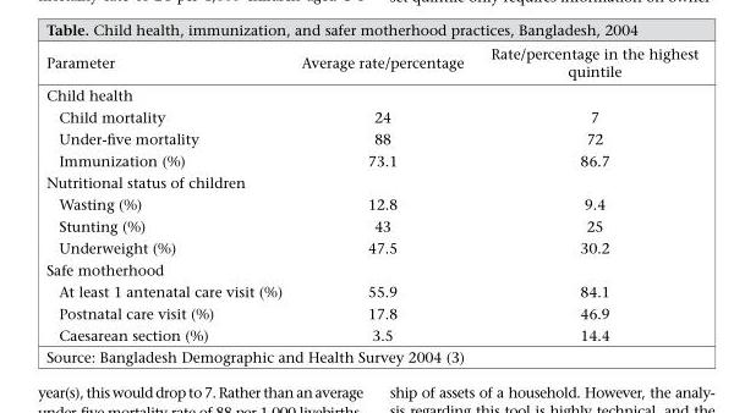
<table><thead><tr><td>Parameter</td><td>Average rate/percentage</td><td>Rate/percentage in the highest quintile</td></tr></thead><tbody><tr><td colspan="3">Child health</td></tr><tr><td>Child mortality</td><td>24</td><td>7</td></tr><tr><td>Under-five mortality</td><td>88</td><td>72</td></tr><tr><td>Immunization (%)</td><td>73.1</td><td>86.7</td></tr><tr><td colspan="3">Nutritional status of children</td></tr><tr><td>Wasting (%)</td><td>12.8</td><td>9.4</td></tr><tr><td>Stunting (%)</td><td>43</td><td>25</td></tr><tr><td>Underweight (%)</td><td>47.5</td><td>30.2</td></tr><tr><td colspan="3">Safe motherhood</td></tr><tr><td>At least 1 antenatal care visit (%)</td><td>55.9</td><td>84.1</td></tr><tr><td>Postnatal care visit (%)</td><td>17.8</td><td>46.9</td></tr><tr><td>Caesarean section (%)</td><td>3.5</td><td>14.4</td></tr><tr><td colspan="3">Source: Bangladesh Demographic and Health Survey 2004 (3)</td></tr></tbody></table>